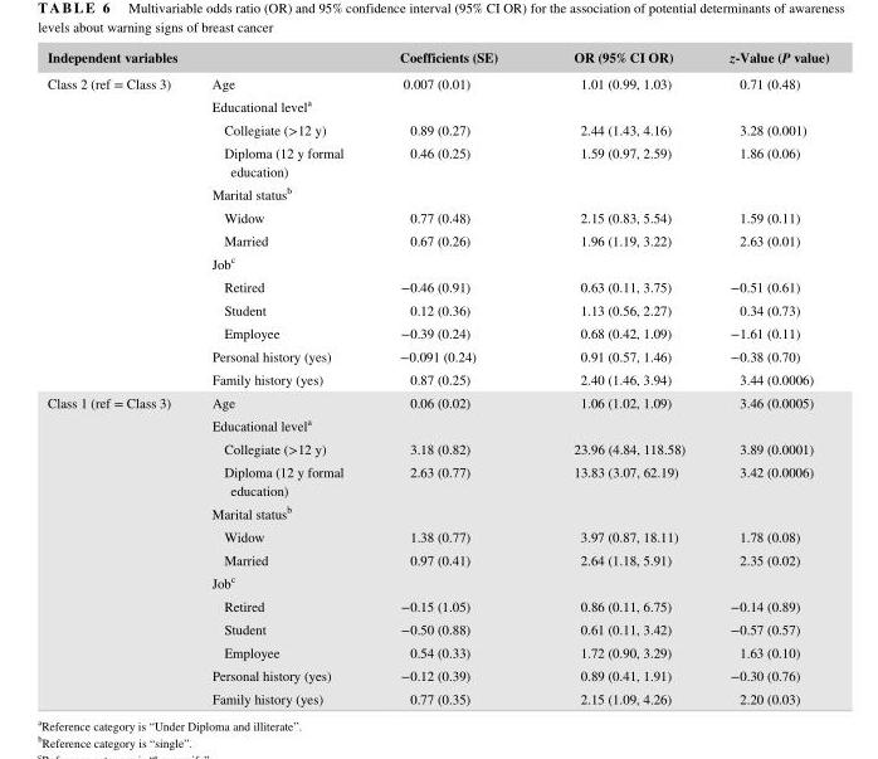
<table><thead><tr><td>Independent variables</td><td></td><td>Coefficients (SE)</td><td>OR (95% CI OR)</td><td>z- Value (P value)</td></tr></thead><tbody><tr><td rowspan="13">Class 2 (ref = Class 3)</td><td>Age</td><td>0.007 (0.01)</td><td>1.01 (0.99, 1.03)</td><td>0.71 (0.48)</td></tr><tr><td colspan="4">Educational level<sup>a</sup></td></tr><tr><td>Collegiate (&gt;12 y)</td><td>0.89 (0.27)</td><td>2.44 (1.43, 4.16)</td><td>3.28 (0.001)</td></tr><tr><td>Diploma (12 y formal education)</td><td>0.46 (0.25)</td><td>1.59 (0.97, 2.59)</td><td>1.86 (0.06)</td></tr><tr><td colspan="4">Marital status<sup>b</sup></td></tr><tr><td>Widow</td><td>0.77 (0.48)</td><td>2.15 (0.83, 5.54)</td><td>1.59 (0.11)</td></tr><tr><td>Married</td><td>0.67 (0.26)</td><td>1.96 (1.19, 3.22)</td><td>2.63 (0.01)</td></tr><tr><td colspan="4">Job<sup>c</sup></td></tr><tr><td>Retired</td><td>−0.46 (0.91)</td><td>0.63 (0.11, 3.75)</td><td>−0.51 (0.61)</td></tr><tr><td>Student</td><td>0.12 (0.36)</td><td>1.13 (0.56, 2.27)</td><td>0.34 (0.73)</td></tr><tr><td>Employee</td><td>−0.39 (0.24)</td><td>0.68 (0.42, 1.09)</td><td>−1.61 (0.11)</td></tr><tr><td>Personal history (yes)</td><td>−0.091 (0.24)</td><td>0.91 (0.57, 1.46)</td><td>−0.38 (0.70)</td></tr><tr><td>Family history (yes)</td><td>0.87 (0.25)</td><td>2.40 (1.46, 3.94)</td><td>3.44 (0.0006)</td></tr><tr><td rowspan="13">Class 1 (ref = Class 3)</td><td>Age</td><td>0.06 (0.02)</td><td>1.06 (1.02, 1.09)</td><td>3.46 (0.0005)</td></tr><tr><td colspan="4">Educational level<sup>a</sup></td></tr><tr><td>Collegiate (&gt;12 y)</td><td>3.18 (0.82)</td><td>23.96 (4.84, 118.58)</td><td>3.89 (0.0001)</td></tr><tr><td>Diploma (12 y formal education)</td><td>2.63 (0.77)</td><td>13.83 (3.07, 62.19)</td><td>3.42 (0.0006)</td></tr><tr><td colspan="4">Marital status<sup>b</sup></td></tr><tr><td>Widow</td><td>1.38 (0.77)</td><td>3.97 (0.87, 18.11)</td><td>1.78 (0.08)</td></tr><tr><td>Married</td><td>0.97 (0.41)</td><td>2.64 (1.18, 5.91)</td><td>2.35 (0.02)</td></tr><tr><td colspan="4">Job<sup>c</sup></td></tr><tr><td>Retired</td><td>−0.15 (1.05)</td><td>0.86 (0.11, 6.75)</td><td>−0.14 (0.89)</td></tr><tr><td>Student</td><td>−0.50 (0.88)</td><td>0.61 (0.11, 3.42)</td><td>−0.57 (0.57)</td></tr><tr><td>Employee</td><td>0.54 (0.33)</td><td>1.72 (0.90, 3.29)</td><td>1.63 (0.10)</td></tr><tr><td>Personal history (yes)</td><td>−0.12 (0.39)</td><td>0.89 (0.41, 1.91)</td><td>−0.30 (0.76)</td></tr><tr><td>Family history (yes)</td><td>0.77 (0.35)</td><td>2.15 (1.09, 4.26)</td><td>2.20 (0.03)</td></tr></tbody></table>